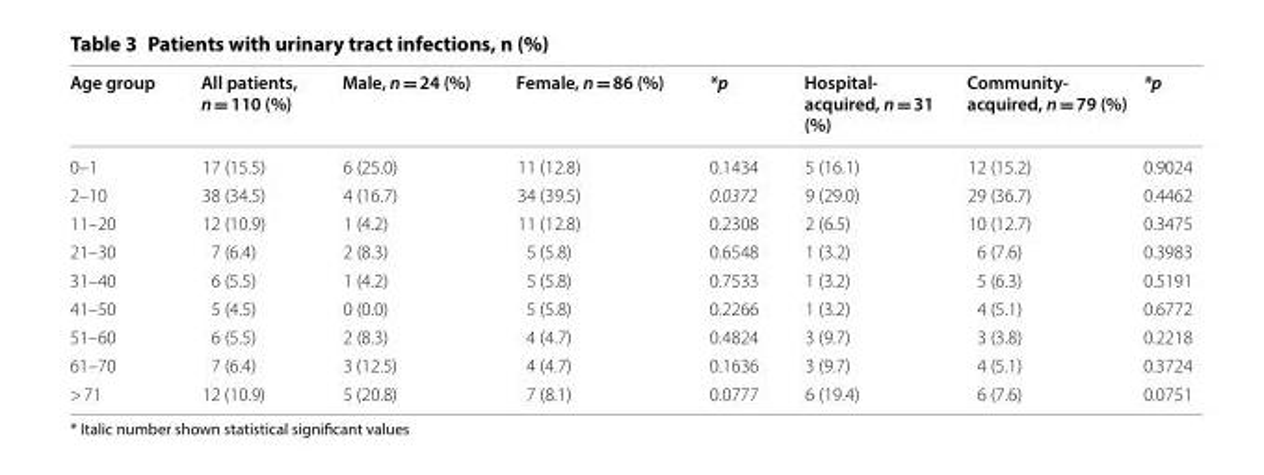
<table><thead><tr><td>Age group</td><td>All patients, n = 110 (%)</td><td>Male, n = 24 (%)</td><td>Female, n = 86 (%)</td><td>*p</td><td>Hospital‑ acquired, n = 31 (%)</td><td>Community‑ acquired, n = 79 (%)</td><td>*p</td></tr></thead><tbody><tr><td>0–1</td><td>17 (15.5)</td><td>6 (25.0)</td><td>11 (12.8)</td><td>0.1434</td><td>5 (16.1)</td><td>12 (15.2)</td><td>0.9024</td></tr><tr><td>2–10</td><td>38 (34.5)</td><td>4 (16.7)</td><td>34 (39.5)</td><td>0.0372</td><td>9 (29.0)</td><td>29 (36.7)</td><td>0.4462</td></tr><tr><td>11–20</td><td>12 (10.9)</td><td>1 (4.2)</td><td>11 (12.8)</td><td>0.2308</td><td>2 (6.5)</td><td>10 (12.7)</td><td>0.3475</td></tr><tr><td>21–30</td><td>7 (6.4)</td><td>2 (8.3)</td><td>5 (5.8)</td><td>0.6548</td><td>1 (3.2)</td><td>6 (7.6)</td><td>0.3983</td></tr><tr><td>31–40</td><td>6 (5.5)</td><td>1 (4.2)</td><td>5 (5.8)</td><td>0.7533</td><td>1 (3.2)</td><td>5 (6.3)</td><td>0.5191</td></tr><tr><td>41–50</td><td>5 (4.5)</td><td>0 (0.0)</td><td>5 (5.8)</td><td>0.2266</td><td>1 (3.2)</td><td>4 (5.1)</td><td>0.6772</td></tr><tr><td>51–60</td><td>6 (5.5)</td><td>2 (8.3)</td><td>4 (4.7)</td><td>0.4824</td><td>3 (9.7)</td><td>3 (3.8)</td><td>0.2218</td></tr><tr><td>61–70</td><td>7 (6.4)</td><td>3 (12.5)</td><td>4 (4.7)</td><td>0.1636</td><td>3 (9.7)</td><td>4 (5.1)</td><td>0.3724</td></tr><tr><td>&gt; 71</td><td>12 (10.9)</td><td>5 (20.8)</td><td>7 (8.1)</td><td>0.0777</td><td>6 (19.4)</td><td>6 (7.6)</td><td>0.0751</td></tr></tbody></table>